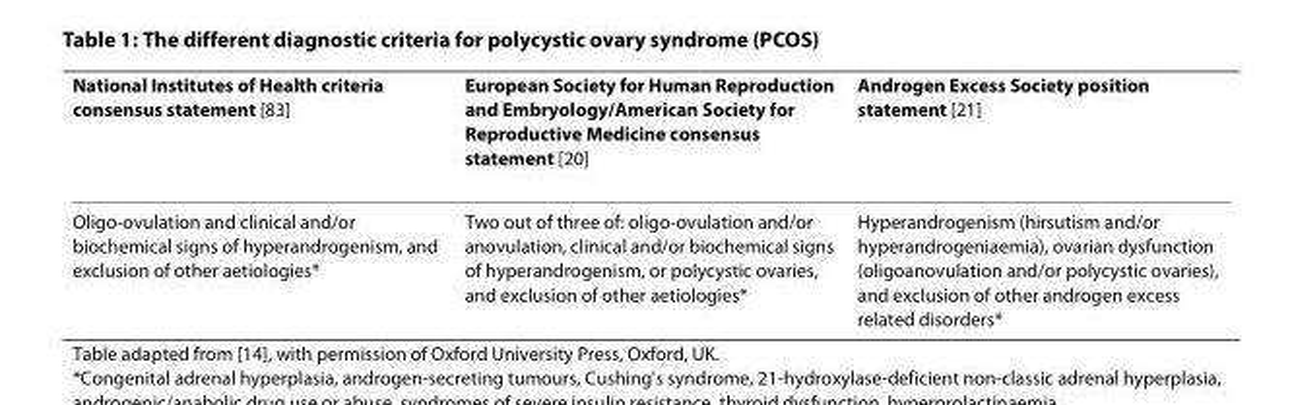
<table><thead><tr><td>National Institutes of Health criteria consensus statement [83]</td><td>European Society for Human Reproduction and Embryology/American Society for Reproductive Medicine consensus statement [20]</td><td>Androgen Excess Society position statement [21]</td></tr></thead><tbody><tr><td>Oligo-ovulation and clinical and/or biochemical signs of hyperandrogenism, and exclusion of other aetiologies*</td><td>Two out of three of: oligo-ovulation and/or anovulation, clinical and/or biochemical signs of hyperandrogenism, or polycystic ovaries, and exclusion of other aetiologies*</td><td>Hyperandrogenism (hirsutism and/or hyperandrogeniaemia), ovarian dysfunction (oligoanovulation and/or polycystic ovaries), and exclusion of other androgen excess related disorders*</td></tr></tbody></table>